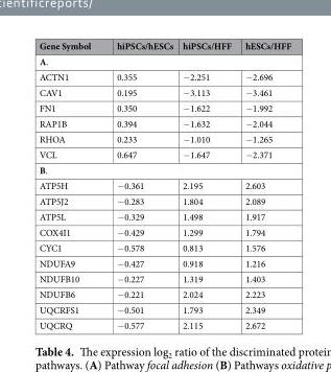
<table><thead><tr><td>Gene Symbol</td><td>hiPSCs/hESCs</td><td>hiPSCs/HFF</td><td>hESCs/HFF</td></tr></thead><tbody><tr><td colspan="4">A.</td></tr><tr><td>ACTN1</td><td>0.355</td><td>−2.251</td><td>−2.696</td></tr><tr><td>CAV1</td><td>0.195</td><td>−3.113</td><td>−3.461</td></tr><tr><td>FN1</td><td>0.350</td><td>−1.622</td><td>−1.992</td></tr><tr><td>RAP1B</td><td>0.394</td><td>−1.632</td><td>−2.044</td></tr><tr><td>RHOA</td><td>0.233</td><td>−1.010</td><td>−1.265</td></tr><tr><td>VCL</td><td>0.647</td><td>−1.647</td><td>−2.371</td></tr><tr><td colspan="4">B.</td></tr><tr><td>ATP5H</td><td>−0.361</td><td>2.195</td><td>2.603</td></tr><tr><td>ATP5J2</td><td>−0.283</td><td>1.804</td><td>2.089</td></tr><tr><td>ATP5L</td><td>−0.329</td><td>1.498</td><td>1.917</td></tr><tr><td>COX4I1</td><td>−0.429</td><td>1.299</td><td>1.794</td></tr><tr><td>CYC1</td><td>−0.578</td><td>0.813</td><td>1.576</td></tr><tr><td>NDUFA9</td><td>−0.427</td><td>0.918</td><td>1.216</td></tr><tr><td>NDUFB10</td><td>−0.227</td><td>1.319</td><td>1.403</td></tr><tr><td>NDUFB6</td><td>−0.221</td><td>2.024</td><td>2.223</td></tr><tr><td>UQCRFS1</td><td>−0.501</td><td>1.793</td><td>2.349</td></tr><tr><td>UQCRQ</td><td>−0.577</td><td>2.115</td><td>2.672</td></tr></tbody></table>